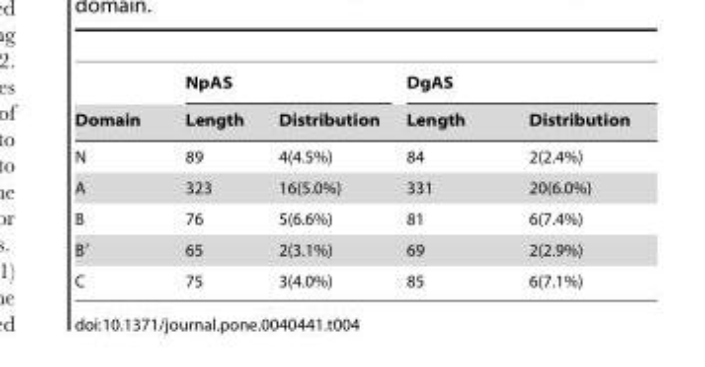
<table><thead><tr><td rowspan="2">Domain</td><td colspan="2">NpAS</td><td colspan="2">DgAS</td></tr><tr><td>Length</td><td>Distribution</td><td>Length</td><td>Distribution</td></tr></thead><tbody><tr><td>N</td><td>89</td><td>4(4.5%)</td><td>84</td><td>2(2.4%)</td></tr><tr><td>A</td><td>323</td><td>16(5.0%)</td><td>331</td><td>20(6.0%)</td></tr><tr><td>B</td><td>76</td><td>5(6.6%)</td><td>81</td><td>6(7.4%)</td></tr><tr><td>B′</td><td>65</td><td>2(3.1%)</td><td>69</td><td>2(2.9%)</td></tr><tr><td>C</td><td>75</td><td>3(4.0%)</td><td>85</td><td>6(7.1%)</td></tr></tbody></table>